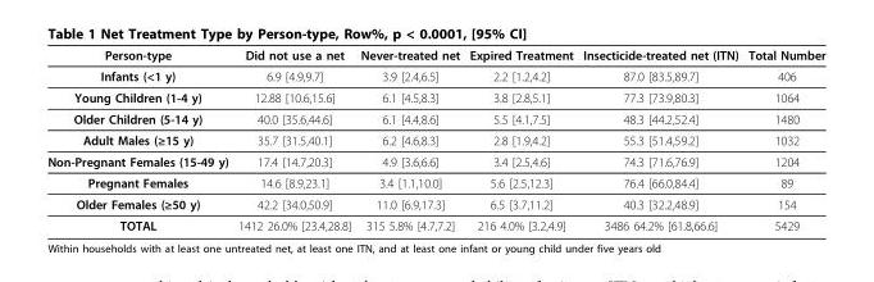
<table><thead><tr><td>Person-type</td><td>Did not use a net</td><td>Never-treated net</td><td>Expired Treatment</td><td>Insecticide-treated net (ITN)</td><td>Total Number</td></tr></thead><tbody><tr><td>Infants (&lt;1 y)</td><td>6.9 [4.9,9.7]</td><td>3.9 [2.4,6.5]</td><td>2.2 [1.2,4.2]</td><td>87.0 [83.5,89.7]</td><td>406</td></tr><tr><td>Young Children (1-4 y)</td><td>12.88 [10.6,15.6]</td><td>6.1 [4.5,8.3]</td><td>3.8 [2.8,5.1]</td><td>77.3 [73.9,80.3]</td><td>1064</td></tr><tr><td>Older Children (5-14 y)</td><td>40.0 [35.6,44.6]</td><td>6.1 [4.4,8.6]</td><td>5.5 [4.1,7.5]</td><td>48.3 [44.2,52.4]</td><td>1480</td></tr><tr><td>Adult Males (≥15 y)</td><td>35.7 [31.5,40.1]</td><td>6.2 [4.6,8.3]</td><td>2.8 [1.9,4.2]</td><td>55.3 [51.4,59.2]</td><td>1032</td></tr><tr><td>Non-Pregnant Females (15-49 y)</td><td>17.4 [14.7,20.3]</td><td>4.9 [3.6,6.6]</td><td>3.4 [2.5,4.6]</td><td>74.3 [71.6,76.9]</td><td>1204</td></tr><tr><td>Pregnant Females</td><td>14.6 [8.9,23.1]</td><td>3.4 [1.1,10.0]</td><td>5.6 [2.5,12.3]</td><td>76.4 [66.0,84.4]</td><td>89</td></tr><tr><td>Older Females (≥50 y)</td><td>42.2 [34.0,50.9]</td><td>11.0 [6.9,17.3]</td><td>6.5 [3.7,11.2]</td><td>40.3 [32.2,48.9]</td><td>154</td></tr><tr><td>TOTAL</td><td>1412 26.0% [23.4,28.8]</td><td>315 5.8% [4.7,7.2]</td><td>216 4.0% [3.2,4.9]</td><td>3486 64.2% [61.8,66.6]</td><td>5429</td></tr></tbody></table>